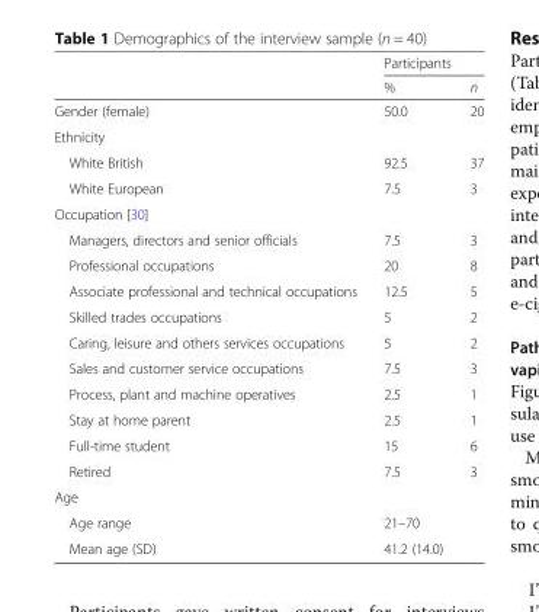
<table><thead><tr><td rowspan="2"></td><td colspan="2">Participants</td></tr><tr><td>%</td><td>n</td></tr></thead><tbody><tr><td>Gender (female)</td><td>50.0</td><td>20</td></tr><tr><td colspan="3">Ethnicity</td></tr><tr><td>White British</td><td>92.5</td><td>37</td></tr><tr><td>White European</td><td>7.5</td><td>3</td></tr><tr><td colspan="3">Occupation [30]</td></tr><tr><td>Managers, directors and senior officials</td><td>7.5</td><td>3</td></tr><tr><td>Professional occupations</td><td>20</td><td>8</td></tr><tr><td>Associate professional and technical occupations</td><td>12.5</td><td>5</td></tr><tr><td>Skilled trades occupations</td><td>5</td><td>2</td></tr><tr><td>Caring, leisure and others services occupations</td><td>5</td><td>2</td></tr><tr><td>Sales and customer service occupations</td><td>7.5</td><td>3</td></tr><tr><td>Process, plant and machine operatives</td><td>2.5</td><td>1</td></tr><tr><td>Stay at home parent</td><td>2.5</td><td>1</td></tr><tr><td>Full-time student</td><td>15</td><td>6</td></tr><tr><td>Retired</td><td>7.5</td><td>3</td></tr><tr><td colspan="3">Age</td></tr><tr><td>Age range</td><td>21–70</td><td></td></tr><tr><td>Mean age (SD)</td><td>41.2 (14.0)</td><td></td></tr></tbody></table>